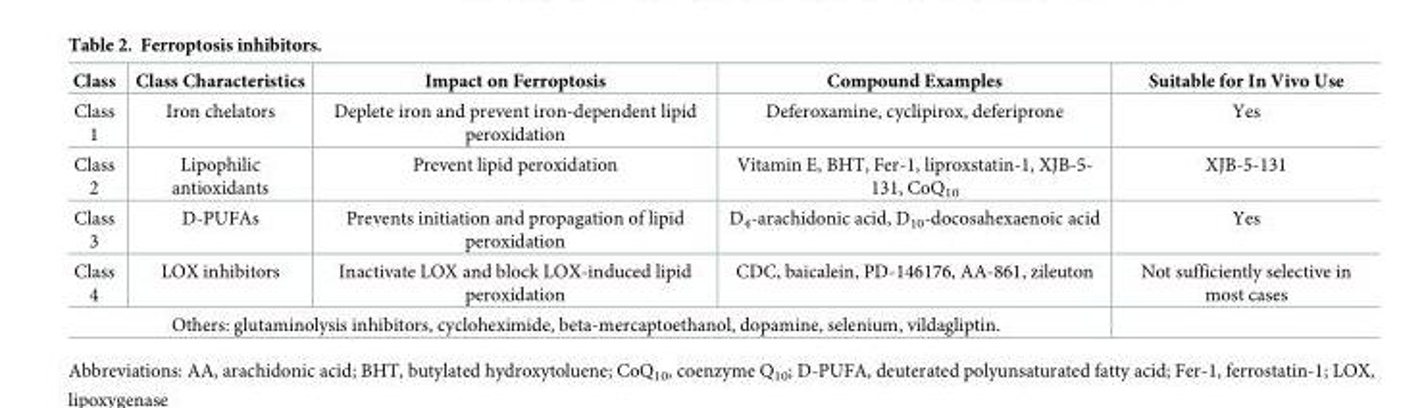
<table><thead><tr><td>Class</td><td>Class Characteristics</td><td>Impact on Ferroptosis</td><td>Compound Examples</td><td>Suitable for In Vivo Use</td></tr></thead><tbody><tr><td>Class 1</td><td>Iron chelators</td><td>Deplete iron and prevent iron-dependent lipid peroxidation</td><td>Deferoxamine, cyclipirox, deferiprone</td><td>Yes</td></tr><tr><td>Class 2</td><td>Lipophilic antioxidants</td><td>Prevent lipid peroxidation</td><td>Vitamin E, BHT, Fer-1, liproxstatin-1, XJB-5- 131, CoQ<sub>10</sub></td><td>XJB-5-131</td></tr><tr><td>Class 3</td><td>D-PUFAs</td><td>Prevents initiation and propagation of lipid peroxidation</td><td>D<sub>4</sub>-arachidonic acid, D<sub>10</sub>-docosahexaenoic acid</td><td>Yes</td></tr><tr><td>Class 4</td><td>LOX inhibitors</td><td>Inactivate LOX and block LOX-induced lipid peroxidation</td><td>CDC, baicalein, PD-146176, AA-861, zileuton</td><td>Not sufficiently selective in most cases</td></tr><tr><td colspan="4">Others: glutaminolysis inhibitors, cycloheximide, beta-mercaptoethanol, dopamine, selenium, vildagliptin.</td><td></td></tr></tbody></table>